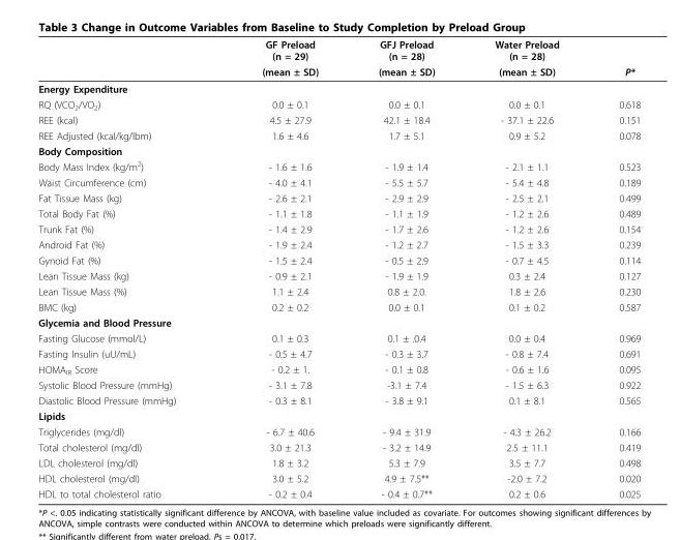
<table><thead><tr><td rowspan="2"></td><td rowspan="2">GF Preload (n = 29) (mean ± SD)</td><td rowspan="2">GFJ Preload (n = 28) (mean ± SD)</td><td rowspan="2">Water Preload (n = 28) (mean ± SD)</td><td rowspan="2">P*</td></tr><tr></tr></thead><tbody><tr><td colspan="5">Energy Expenditure</td></tr><tr><td>RQ (VCO<sub>2</sub>/VO<sub>2</sub>)</td><td>0.0 ± 0.1</td><td>0.0 ± 0.1</td><td>0.0 ± 0.1</td><td>0.618</td></tr><tr><td>REE (kcal)</td><td>4.5 ± 27.9</td><td>42.1 ± 18.4</td><td>- 37.1 ± 22.6</td><td>0.151</td></tr><tr><td>REE Adjusted (kcal/kg/lbm)</td><td>1.6 ± 4.6</td><td>1.7 ± 5.1</td><td>0.9 ± 5.2</td><td>0.078</td></tr><tr><td colspan="5">Body Composition</td></tr><tr><td>Body Mass Index (kg/m<sup>2</sup>)</td><td>- 1.6 ± 1.6</td><td>- 1.9 ± 1.4</td><td>- 2.1 ± 1.1</td><td>0.523</td></tr><tr><td>Waist Circumference (cm)</td><td>- 4.0 ± 4.1</td><td>- 5.5 ± 5.7</td><td>- 5.4 ± 4.8</td><td>0.189</td></tr><tr><td>Fat Tissue Mass (kg)</td><td>- 2.6 ± 2.1</td><td>- 2.9 ± 2.9</td><td>- 2.5 ± 2.1</td><td>0.499</td></tr><tr><td>Total Body Fat (%)</td><td>- 1.1 ± 1.8</td><td>- 1.1 ± 1.9</td><td>- 1.2 ± 2.6</td><td>0.489</td></tr><tr><td>Trunk Fat (%)</td><td>- 1.4 ± 2.9</td><td>- 1.7 ± 2.6</td><td>- 1.2 ± 2.6</td><td>0.154</td></tr><tr><td>Android Fat (%)</td><td>- 1.9 ± 2.4</td><td>- 1.2 ± 2.7</td><td>- 1.5 ± 3.3</td><td>0.239</td></tr><tr><td>Gynoid Fat (%)</td><td>- 1.5 ± 2.4</td><td>- 0.5 ± 2.9</td><td>- 0.7 ± 4.5</td><td>0.114</td></tr><tr><td>Lean Tissue Mass (kg)</td><td>- 0.9 ± 2.1</td><td>- 1.9 ± 1.9</td><td>0.3 ± 2.4</td><td>0.127</td></tr><tr><td>Lean Tissue Mass (%)</td><td>1.1 ± 2.4</td><td>0.8 ± 2.0.</td><td>1.8 ± 2.6</td><td>0.230</td></tr><tr><td>BMC (kg)</td><td>0.2 ± 0.2</td><td>0.0 ± 0.1</td><td>0.1 ± 0.2</td><td>0.587</td></tr><tr><td colspan="5">Glycemia and Blood Pressure</td></tr><tr><td>Fasting Glucose (mmol/L)</td><td>0.1 ± 0.3</td><td>0.1 ± .0.4</td><td>0.0 ± 0.4</td><td>0.969</td></tr><tr><td>Fasting Insulin (uU/mL)</td><td>- 0.5 ± 4.7</td><td>- 0.3 ± 3.7</td><td>- 0.8 ± 7.4</td><td>0.691</td></tr><tr><td>HOMA<sub>IR</sub> Score</td><td>- 0.2 ± 1.</td><td>- 0.1 ± 0.8</td><td>- 0.6 ± 1.6</td><td>0.095</td></tr><tr><td>Systolic Blood Pressure (mmHg)</td><td>- 3.1 ± 7.8</td><td>-3.1 ± 7.4</td><td>- 1.5 ± 6.3</td><td>0.922</td></tr><tr><td>Diastolic Blood Pressure (mmHg)</td><td>- 0.3 ± 8.1</td><td>- 3.8 ± 9.1</td><td>0.1 ± 8.1</td><td>0.565</td></tr><tr><td colspan="5">Lipids</td></tr><tr><td>Triglycerides (mg/dl)</td><td>- 6.7 ± 40.6</td><td>- 9.4 ± 31.9</td><td>- 4.3 ± 26.2</td><td>0.166</td></tr><tr><td>Total cholesterol (mg/dl)</td><td>3.0 ± 21.3</td><td>- 3.2 ± 14.9</td><td>2.5 ± 11.1</td><td>0.419</td></tr><tr><td>LDL cholesterol (mg/dl)</td><td>1.8 ± 3.2</td><td>5.3 ± 7.9</td><td>3.5 ± 7.7</td><td>0.498</td></tr><tr><td>HDL cholesterol (mg/dl)</td><td>3.0 ± 5.2</td><td>4.9 ± 7.5**</td><td>-2.0 ± 7.2</td><td>0.020</td></tr><tr><td>HDL to total cholesterol ratio</td><td>- 0.2 ± 0.4</td><td>- 0.4 ± 0.7**</td><td>0.2 ± 0.6</td><td>0.025</td></tr></tbody></table>